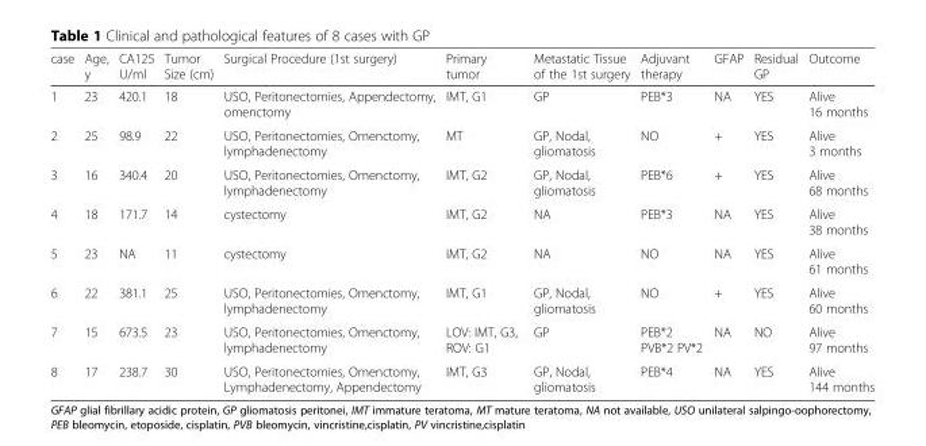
<table><thead><tr><td>case</td><td>Age, y</td><td>CA125 U/ml</td><td>Tumor Size (cm)</td><td>Surgical Procedure (1st surgery)</td><td>Primary tumor</td><td>Metastatic Tissue of the 1st surgery</td><td>Adjuvant therapy</td><td>GFAP</td><td>Residual GP</td><td>Outcome</td></tr></thead><tbody><tr><td>1</td><td>23</td><td>420.1</td><td>18</td><td>USO, Peritonectomies, Appendectomy, omenctomy</td><td>IMT, G1</td><td>GP</td><td>PEB*3</td><td>NA</td><td>YES</td><td>Alive 16 months</td></tr><tr><td>2</td><td>25</td><td>98.9</td><td>22</td><td>USO, Peritonectomies, Omenctomy, lymphadenectomy</td><td>MT</td><td>GP, Nodal, gliomatosis</td><td>NO</td><td>+</td><td>YES</td><td>Alive 3 months</td></tr><tr><td>3</td><td>16</td><td>340.4</td><td>20</td><td>USO, Peritonectomies, Omenctomy, lymphadenectomy</td><td>IMT, G2</td><td>GP, Nodal, gliomatosis</td><td>PEB*6</td><td>+</td><td>YES</td><td>Alive 68 months</td></tr><tr><td>4</td><td>18</td><td>171.7</td><td>14</td><td>cystectomy</td><td>IMT, G2</td><td>NA</td><td>PEB*3</td><td>NA</td><td>YES</td><td>Alive 38 months</td></tr><tr><td>5</td><td>23</td><td>NA</td><td>11</td><td>cystectomy</td><td>IMT, G2</td><td>NA</td><td>NO</td><td>NA</td><td>YES</td><td>Alive 61 months</td></tr><tr><td>6</td><td>22</td><td>381.1</td><td>25</td><td>USO, Peritonectomies, Omenctomy, lymphadenectomy</td><td>IMT, G1</td><td>GP, Nodal, gliomatosis</td><td>NO</td><td>+</td><td>YES</td><td>Alive 60 months</td></tr><tr><td>7</td><td>15</td><td>673.5</td><td>23</td><td>USO, Peritonectomies, Omenctomy, lymphadenectomy</td><td>LOV: IMT, G3, ROV: G1</td><td>GP</td><td>PEB*2 PVB*2 PV*2</td><td>NA</td><td>NO</td><td>Alive 97 months</td></tr><tr><td>8</td><td>17</td><td>238.7</td><td>30</td><td>USO, Peritonectomies, Omenctomy, Lymphadenectomy, Appendectomy</td><td>IMT, G3</td><td>GP, Nodal, gliomatosis</td><td>PEB*4</td><td>NA</td><td>YES</td><td>Alive 144 months</td></tr></tbody></table>